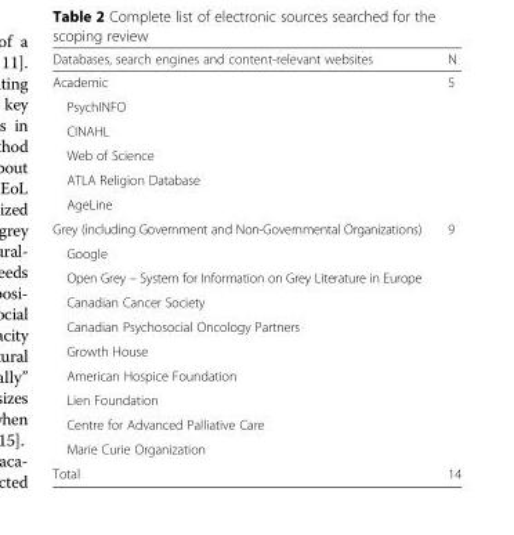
<table><thead><tr><td>Databases, search engines and content-relevant websites</td><td>N</td></tr></thead><tbody><tr><td>Academic</td><td>5</td></tr><tr><td colspan="2">PsychINFO</td></tr><tr><td colspan="2">CINAHL</td></tr><tr><td colspan="2">Web of Science</td></tr><tr><td colspan="2">ATLA Religion Database</td></tr><tr><td colspan="2">AgeLine</td></tr><tr><td>Grey (including Government and Non-Governmental Organizations)</td><td>9</td></tr><tr><td colspan="2">Google</td></tr><tr><td colspan="2">Open Grey – System for Information on Grey Literature in Europe</td></tr><tr><td colspan="2">Canadian Cancer Society</td></tr><tr><td colspan="2">Canadian Psychosocial Oncology Partners</td></tr><tr><td colspan="2">Growth House</td></tr><tr><td colspan="2">American Hospice Foundation</td></tr><tr><td colspan="2">Lien Foundation</td></tr><tr><td colspan="2">Centre for Advanced Palliative Care</td></tr><tr><td colspan="2">Marie Curie Organization</td></tr><tr><td>Total</td><td>14</td></tr></tbody></table>